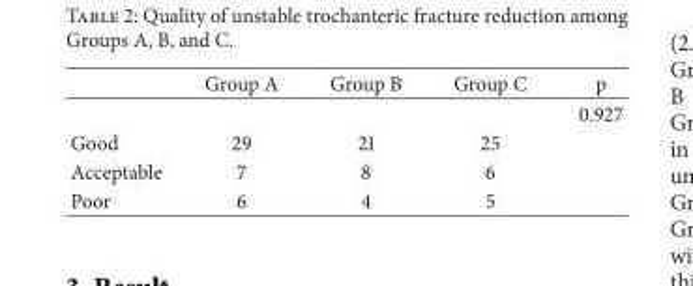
<table><thead><tr><td></td><td>Group A</td><td>Group B</td><td>Group C</td><td>p</td></tr></thead><tbody><tr><td></td><td></td><td></td><td></td><td>0.927</td></tr><tr><td>Good</td><td>29</td><td>21</td><td>25</td><td></td></tr><tr><td>Acceptable</td><td>7</td><td>8</td><td>6</td><td></td></tr><tr><td>Poor</td><td>6</td><td>4</td><td>5</td><td></td></tr></tbody></table>